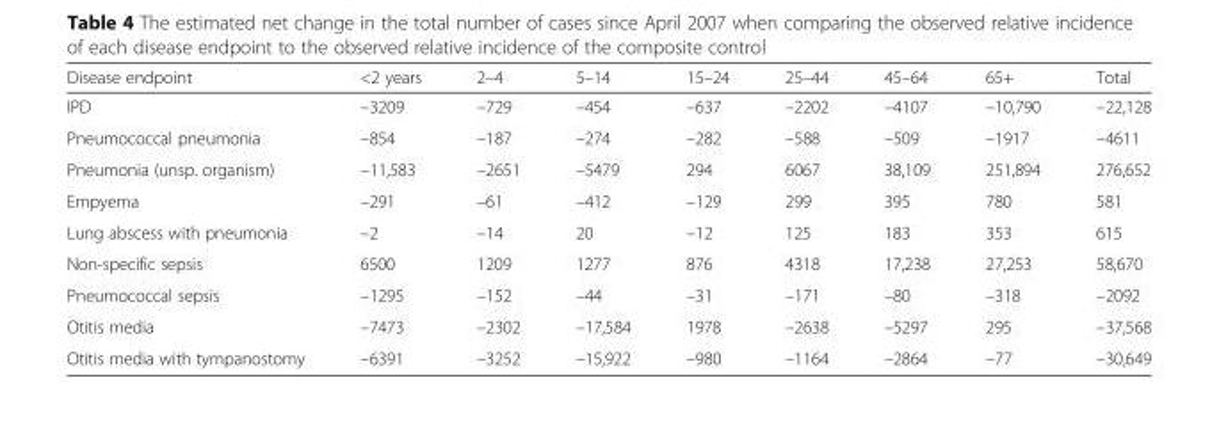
<table><thead><tr><td>Disease endpoint</td><td>&lt;2 years</td><td>2–4</td><td>5–14</td><td>15–24</td><td>25–44</td><td>45–64</td><td>65+</td><td>Total</td></tr></thead><tbody><tr><td>IPD</td><td>–3209</td><td>–729</td><td>–454</td><td>–637</td><td>–2202</td><td>–4107</td><td>–10,790</td><td>–22,128</td></tr><tr><td>Pneumococcal pneumonia</td><td>–854</td><td>–187</td><td>–274</td><td>–282</td><td>–588</td><td>–509</td><td>–1917</td><td>–4611</td></tr><tr><td>Pneumonia (unsp. organism)</td><td>–11,583</td><td>–2651</td><td>–5479</td><td>294</td><td>6067</td><td>38,109</td><td>251,894</td><td>276,652</td></tr><tr><td>Empyema</td><td>–291</td><td>–61</td><td>–412</td><td>–129</td><td>299</td><td>395</td><td>780</td><td>581</td></tr><tr><td>Lung abscess with pneumonia</td><td>–2</td><td>–14</td><td>20</td><td>–12</td><td>125</td><td>183</td><td>353</td><td>615</td></tr><tr><td>Non-specific sepsis</td><td>6500</td><td>1209</td><td>1277</td><td>876</td><td>4318</td><td>17,238</td><td>27,253</td><td>58,670</td></tr><tr><td>Pneumococcal sepsis</td><td>–1295</td><td>–152</td><td>–44</td><td>–31</td><td>–171</td><td>–80</td><td>–318</td><td>–2092</td></tr><tr><td>Otitis media</td><td>–7473</td><td>–2302</td><td>–17,584</td><td>1978</td><td>–2638</td><td>–5297</td><td>295</td><td>–37,568</td></tr><tr><td>Otitis media with tympanostomy</td><td>–6391</td><td>–3252</td><td>–15,922</td><td>–980</td><td>–1164</td><td>–2864</td><td>–77</td><td>–30,649</td></tr></tbody></table>